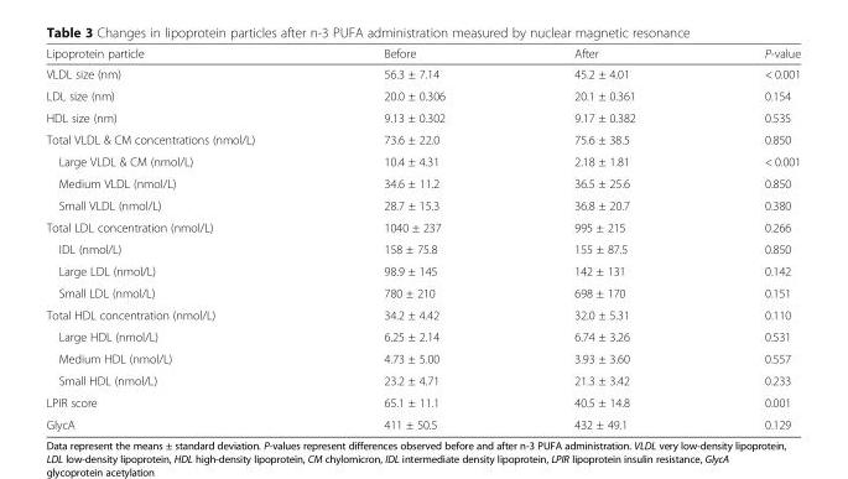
<table><thead><tr><td>Lipoprotein particle</td><td>Before</td><td>After</td><td>P-value</td></tr></thead><tbody><tr><td>VLDL size (nm)</td><td>56.3 ± 7.14</td><td>45.2 ± 4.01</td><td>&lt; 0.001</td></tr><tr><td>LDL size (nm)</td><td>20.0 ± 0.306</td><td>20.1 ± 0.361</td><td>0.154</td></tr><tr><td>HDL size (nm)</td><td>9.13 ± 0.302</td><td>9.17 ± 0.382</td><td>0.535</td></tr><tr><td>Total VLDL &amp; CM concentrations (nmol/L)</td><td>73.6 ± 22.0</td><td>75.6 ± 38.5</td><td>0.850</td></tr><tr><td>Large VLDL &amp; CM (nmol/L)</td><td>10.4 ± 4.31</td><td>2.18 ± 1.81</td><td>&lt; 0.001</td></tr><tr><td>Medium VLDL (nmol/L)</td><td>34.6 ± 11.2</td><td>36.5 ± 25.6</td><td>0.850</td></tr><tr><td>Small VLDL (nmol/L)</td><td>28.7 ± 15.3</td><td>36.8 ± 20.7</td><td>0.380</td></tr><tr><td>Total LDL concentration (nmol/L)</td><td>1040 ± 237</td><td>995 ± 215</td><td>0.266</td></tr><tr><td>IDL (nmol/L)</td><td>158 ± 75.8</td><td>155 ± 87.5</td><td>0.850</td></tr><tr><td>Large LDL (nmol/L)</td><td>98.9 ± 145</td><td>142 ± 131</td><td>0.142</td></tr><tr><td>Small LDL (nmol/L)</td><td>780 ± 210</td><td>698 ± 170</td><td>0.151</td></tr><tr><td>Total HDL concentration (nmol/L)</td><td>34.2 ± 4.42</td><td>32.0 ± 5.31</td><td>0.110</td></tr><tr><td>Large HDL (nmol/L)</td><td>6.25 ± 2.14</td><td>6.74 ± 3.26</td><td>0.531</td></tr><tr><td>Medium HDL (nmol/L)</td><td>4.73 ± 5.00</td><td>3.93 ± 3.60</td><td>0.557</td></tr><tr><td>Small HDL (nmol/L)</td><td>23.2 ± 4.71</td><td>21.3 ± 3.42</td><td>0.233</td></tr><tr><td>LPIR score</td><td>65.1 ± 11.1</td><td>40.5 ± 14.8</td><td>0.001</td></tr><tr><td>GlycA</td><td>411 ± 50.5</td><td>432 ± 49.1</td><td>0.129</td></tr></tbody></table>